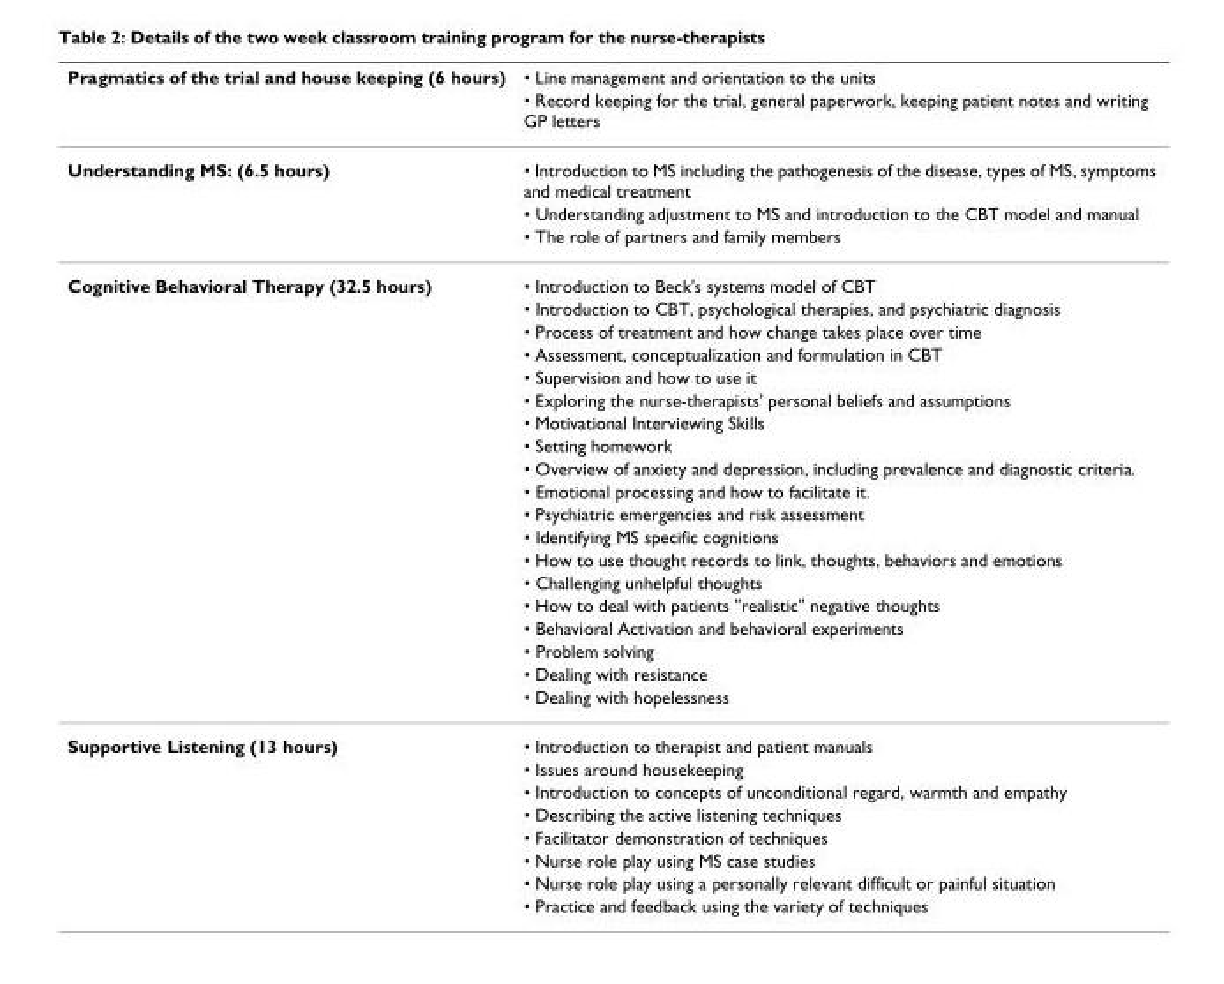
<table><thead><tr><td rowspan="2">Pragmatics of the trial and house keeping (6 hours)</td><td rowspan="2">• Line management and orientation to the units • Record keeping for the trial, general paperwork, keeping patient notes and writing GP letters</td></tr><tr></tr></thead><tbody><tr><td rowspan="3">Understanding MS: (6.5 hours)</td><td>• Introduction to MS including the pathogenesis of the disease, types of MS, symptoms and medical treatment</td></tr><tr><td>• Understanding adjustment to MS and introduction to the CBT model and manual</td></tr><tr><td>• The role of partners and family members</td></tr><tr><td rowspan="19">Cognitive Behavioral Therapy (32.5 hours)</td><td>• Introduction to Beck&#x27;s systems model of CBT</td></tr><tr><td>• Introduction to CBT, psychological therapies, and psychiatric diagnosis</td></tr><tr><td>• Process of treatment and how change takes place over time</td></tr><tr><td>• Assessment, conceptualization and formulation in CBT</td></tr><tr><td>• Supervision and how to use it</td></tr><tr><td>• Exploring the nurse-therapists&#x27; personal beliefs and assumptions</td></tr><tr><td>• Motivational Interviewing Skills</td></tr><tr><td>• Setting homework</td></tr><tr><td>• Overview of anxiety and depression, including prevalence and diagnostic criteria.</td></tr><tr><td>• Emotional processing and how to facilitate it.</td></tr><tr><td>• Psychiatric emergencies and risk assessment</td></tr><tr><td>• Identifying MS specific cognitions</td></tr><tr><td>• How to use thought records to link, thoughts, behaviors and emotions</td></tr><tr><td>• Challenging unhelpful thoughts</td></tr><tr><td>• How to deal with patients &quot;realistic&quot; negative thoughts</td></tr><tr><td>• Behavioral Activation and behavioral experiments</td></tr><tr><td>• Problem solving</td></tr><tr><td>• Dealing with resistance</td></tr><tr><td>• Dealing with hopelessness</td></tr><tr><td rowspan="8">Supportive Listening (13 hours)</td><td>• Introduction to therapist and patient manuals</td></tr><tr><td>• Issues around housekeeping</td></tr><tr><td>• Introduction to concepts of unconditional regard, warmth and empathy</td></tr><tr><td>• Describing the active listening techniques</td></tr><tr><td>• Facilitator demonstration of techniques</td></tr><tr><td>• Nurse role play using MS case studies</td></tr><tr><td>• Nurse role play using a personally relevant difficult or painful situation</td></tr><tr><td>• Practice and feedback using the variety of techniques</td></tr></tbody></table>